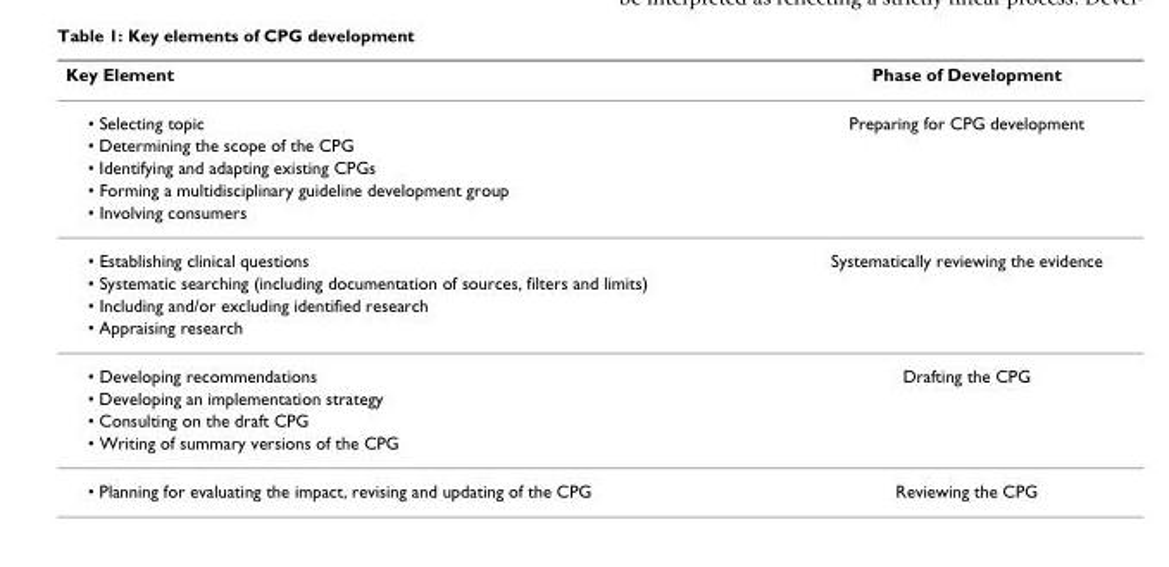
<table><thead><tr><td>Key Element</td><td>Phase of Development</td></tr></thead><tbody><tr><td>• Selecting topic</td><td>Preparing for CPG development</td></tr><tr><td colspan="2">• Determining the scope of the CPG</td></tr><tr><td colspan="2">• Identifying and adapting existing CPGs</td></tr><tr><td colspan="2">• Forming a multidisciplinary guideline development group</td></tr><tr><td colspan="2">• Involving consumers</td></tr><tr><td>• Establishing clinical questions</td><td>Systematically reviewing the evidence</td></tr><tr><td colspan="2">• Systematic searching (including documentation of sources, filters and limits)</td></tr><tr><td colspan="2">• Including and/or excluding identified research</td></tr><tr><td colspan="2">• Appraising research</td></tr><tr><td>• Developing recommendations</td><td>Drafting the CPG</td></tr><tr><td colspan="2">• Developing an implementation strategy</td></tr><tr><td colspan="2">• Consulting on the draft CPG</td></tr><tr><td colspan="2">• Writing of summary versions of the CPG</td></tr><tr><td>• Planning for evaluating the impact, revising and updating of the CPG</td><td>Reviewing the CPG</td></tr></tbody></table>